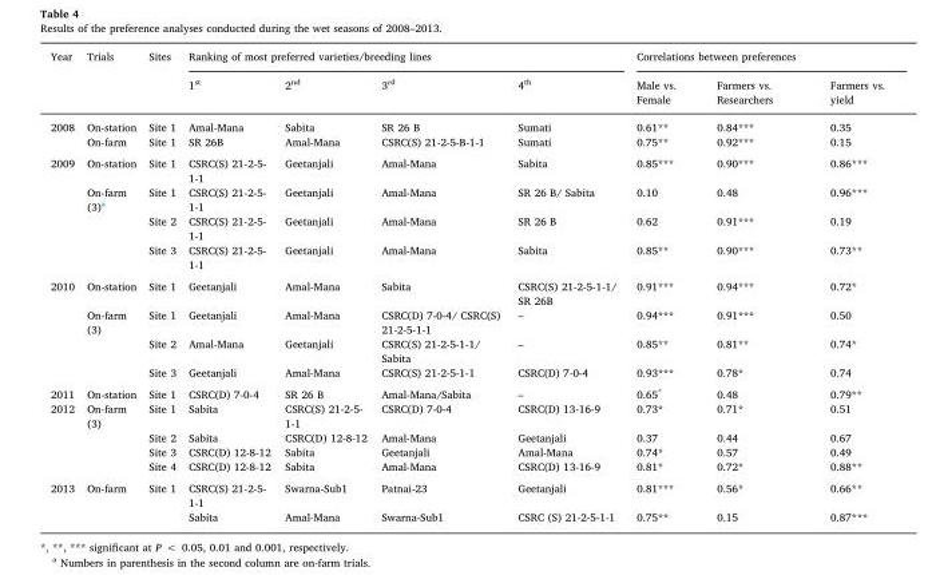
<table><thead><tr><td rowspan="2">Year</td><td rowspan="2">Trials</td><td rowspan="2">Sites</td><td colspan="4">Ranking of most preferred varieties/breeding lines</td><td colspan="3">Correlations between preferences</td></tr><tr><td>1<sup>st</sup></td><td>2<sup>nd</sup></td><td>3<sup>rd</sup></td><td>4<sup>th</sup></td><td>Male vs. Female</td><td>Farmers vs. Researchers</td><td>Farmers vs. yield</td></tr></thead><tbody><tr><td rowspan="2">2008</td><td>On-station</td><td>Site 1</td><td>Amal-Mana</td><td>Sabita</td><td>SR 26 B</td><td>Sumati</td><td>0.61**</td><td>0.84***</td><td>0.35</td></tr><tr><td>On-farm</td><td>Site 1</td><td>SR 26B</td><td>Amal-Mana</td><td>CSRC(S) 21-2-5-B-1-1</td><td>Sumati</td><td>0.75**</td><td>0.92***</td><td>0.15</td></tr><tr><td rowspan="4">2009</td><td>On-station</td><td>Site 1</td><td>CSRC(S) 21-2-5- 1-1</td><td>Geetanjali</td><td>Amal-Mana</td><td>Sabita</td><td>0.85***</td><td>0.90***</td><td>0.86***</td></tr><tr><td rowspan="3">On-farm (3)<sup>a</sup></td><td>Site 1</td><td>CSRC(S) 21-2-5- 1-1</td><td>Geetanjali</td><td>Amal-Mana</td><td>SR 26 B/ Sabita</td><td>0.10</td><td>0.48</td><td>0.96***</td></tr><tr><td>Site 2</td><td>CSRC(S) 21-2-5- 1-1</td><td>Geetanjali</td><td>Amal-Mana</td><td>SR 26 B</td><td>0.62</td><td>0.91***</td><td>0.19</td></tr><tr><td>Site 3</td><td>CSRC(S) 21-2-5- 1-1</td><td>Geetanjali</td><td>Amal-Mana</td><td>Sabita</td><td>0.85**</td><td>0.90***</td><td>0.73**</td></tr><tr><td rowspan="4">2010</td><td>On-station</td><td>Site 1</td><td>Geetanjali</td><td>Amal-Mana</td><td>Sabita</td><td>CSRC(S) 21-2-5-1-1/ SR 26B</td><td>0.91***</td><td>0.94***</td><td>0.72*</td></tr><tr><td rowspan="3">On-farm (3)</td><td>Site 1</td><td>Geetanjali</td><td>Amal-Mana</td><td>CSRC(D) 7-0-4/ CSRC(S) 21-2-5-1-1</td><td>–</td><td>0.94***</td><td>0.91***</td><td>0.50</td></tr><tr><td>Site 2</td><td>Amal-Mana</td><td>Geetanjali</td><td>CSRC(S) 21-2-5-1-1/ Sabita</td><td>–</td><td>0.85**</td><td>0.81**</td><td>0.74*</td></tr><tr><td>Site 3</td><td>Geetanjali</td><td>Amal-Mana</td><td>CSRC(S) 21-2-5-1-1</td><td>CSRC(D) 7-0-4</td><td>0.93***</td><td>0.78*</td><td>0.74</td></tr><tr><td>2011</td><td>On-station</td><td>Site 1</td><td>CSRC(D) 7-0-4</td><td>SR 26 B</td><td>Amal-Mana/Sabita</td><td>–</td><td>0.65*</td><td>0.48</td><td>0.79**</td></tr><tr><td rowspan="4">2012</td><td rowspan="4">On-farm (3)</td><td>Site 1</td><td>Sabita</td><td>CSRC(S) 21-2-5- 1-1</td><td>CSRC(D) 7-0-4</td><td>CSRC(D) 13-16-9</td><td>0.73*</td><td>0.71*</td><td>0.51</td></tr><tr><td>Site 2</td><td>Sabita</td><td>CSRC(D) 12-8-12</td><td>Amal-Mana</td><td>Geetanjali</td><td>0.37</td><td>0.44</td><td>0.67</td></tr><tr><td>Site 3</td><td>CSRC(D) 12-8-12</td><td>Sabita</td><td>Geetanjali</td><td>Amal-Mana</td><td>0.74*</td><td>0.57</td><td>0.49</td></tr><tr><td>Site 4</td><td>CSRC(D) 12-8-12</td><td>Sabita</td><td>Amal-Mana</td><td>CSRC(D) 13-16-9</td><td>0.81*</td><td>0.72*</td><td>0.88**</td></tr><tr><td rowspan="2">2013</td><td rowspan="2">On-farm</td><td>Site 1</td><td>CSRC(S) 21-2-5- 1-1</td><td>Swarna-Sub1</td><td>Patnai-23</td><td>Geetanjali</td><td>0.81***</td><td>0.56*</td><td>0.66**</td></tr><tr><td></td><td>Sabita</td><td>Amal-Mana</td><td>Swarna-Sub1</td><td>CSRC (S) 21-2-5-1-1</td><td>0.75**</td><td>0.15</td><td>0.87***</td></tr></tbody></table>